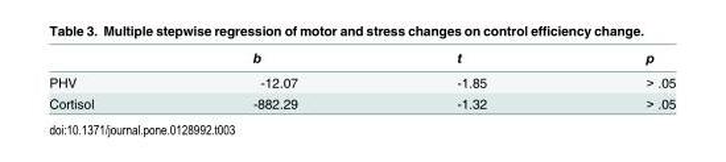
<table><thead><tr><td></td><td>b</td><td>t</td><td>p</td></tr></thead><tbody><tr><td>PHV</td><td>-12.07</td><td>-1.85</td><td>&gt; .05</td></tr><tr><td>Cortisol</td><td>-882.29</td><td>-1.32</td><td>&gt; .05</td></tr></tbody></table>